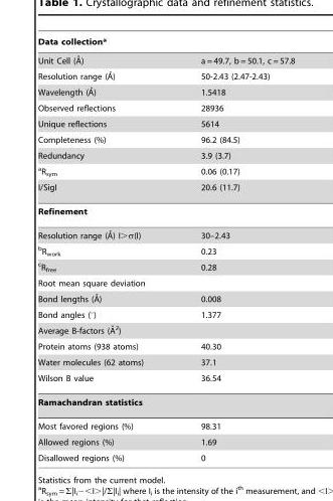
<table><thead><tr><td colspan="2">Data collection*</td></tr><tr><td>Unit Cell (A˚)</td><td>a = 49.7, b = 50.1, c = 57.8</td></tr></thead><tbody><tr><td>Resolution range (A˚)</td><td>50-2.43 (2.47-2.43)</td></tr><tr><td>Wavelength (A˚)</td><td>1.5418</td></tr><tr><td>Observed reflections</td><td>28936</td></tr><tr><td>Unique reflections</td><td>5614</td></tr><tr><td>Completeness (%)</td><td>96.2 (84.5)</td></tr><tr><td>Redundancy</td><td>3.9 (3.7)</td></tr><tr><td>aR<sub>sym</sub></td><td>0.06 (0.17)</td></tr><tr><td>I/SigI</td><td>20.6 (11.7)</td></tr><tr><td colspan="2">Refinement</td></tr><tr><td>Resolution range (A˚) I.s(I)</td><td>30–2.43</td></tr><tr><td>bR<sub>work</sub></td><td>0.23</td></tr><tr><td>cR<sub>free</sub></td><td>0.28</td></tr><tr><td colspan="2">Root mean square deviation</td></tr><tr><td>Bond lengths (A˚)</td><td>0.008</td></tr><tr><td>Bond angles (°)</td><td>1.377</td></tr><tr><td colspan="2">Average B-factors (A˚ 2)</td></tr><tr><td>Protein atoms (938 atoms)</td><td>40.30</td></tr><tr><td>Water molecules (62 atoms)</td><td>37.1</td></tr><tr><td>Wilson B value</td><td>36.54</td></tr><tr><td colspan="2">Ramachandran statistics</td></tr><tr><td>Most favored regions (%)</td><td>98.31</td></tr><tr><td>Allowed regions (%)</td><td>1.69</td></tr><tr><td>Disallowed regions (%)</td><td>0</td></tr></tbody></table>